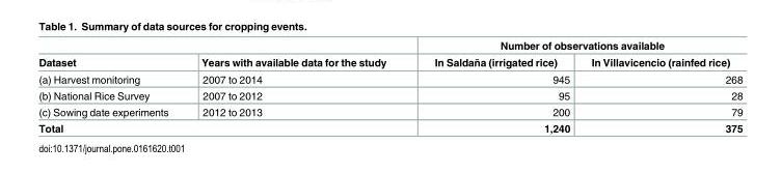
<table><thead><tr><td rowspan="2">Dataset</td><td rowspan="2">Years with available data for the study</td><td colspan="2">Number of observations available</td></tr><tr><td>In Saldaña (irrigated rice)</td><td>In Villavicencio (rainfed rice)</td></tr></thead><tbody><tr><td>(a) Harvest monitoring</td><td>2007 to 2014</td><td>945</td><td>268</td></tr><tr><td>(b) National Rice Survey</td><td>2007 to 2012</td><td>95</td><td>28</td></tr><tr><td>(c) Sowing date experiments</td><td>2012 to 2013</td><td>200</td><td>79</td></tr><tr><td colspan="2">Total</td><td>1,240</td><td>375</td></tr></tbody></table>